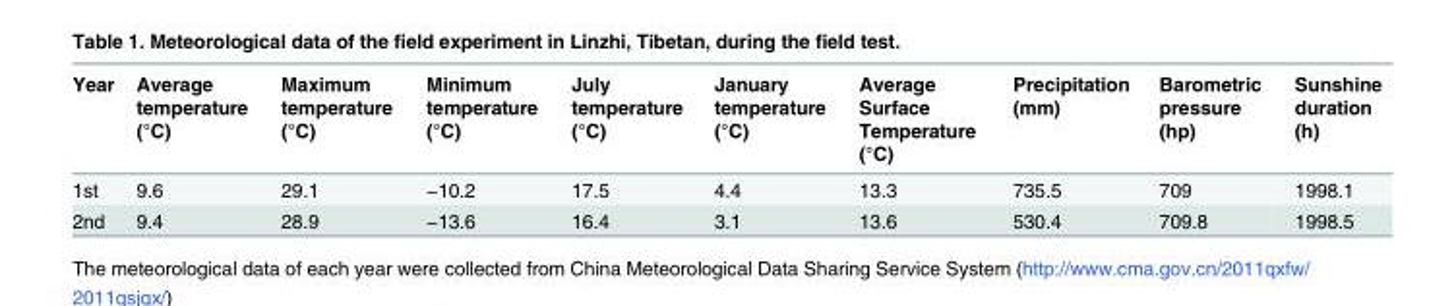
<table><thead><tr><td>Year</td><td>Average temperature (°C)</td><td>Maximum temperature (°C)</td><td>Minimum temperature (°C)</td><td>July temperature (°C)</td><td>January temperature (°C)</td><td>Average Surface Temperature (°C)</td><td>Precipitation (mm)</td><td>Barometric pressure (hp)</td><td>Sunshine duration (h)</td></tr></thead><tbody><tr><td>1st</td><td>9.6</td><td>29.1</td><td>−10.2</td><td>17.5</td><td>4.4</td><td>13.3</td><td>735.5</td><td>709</td><td>1998.1</td></tr><tr><td>2nd</td><td>9.4</td><td>28.9</td><td>−13.6</td><td>16.4</td><td>3.1</td><td>13.6</td><td>530.4</td><td>709.8</td><td>1998.5</td></tr></tbody></table>